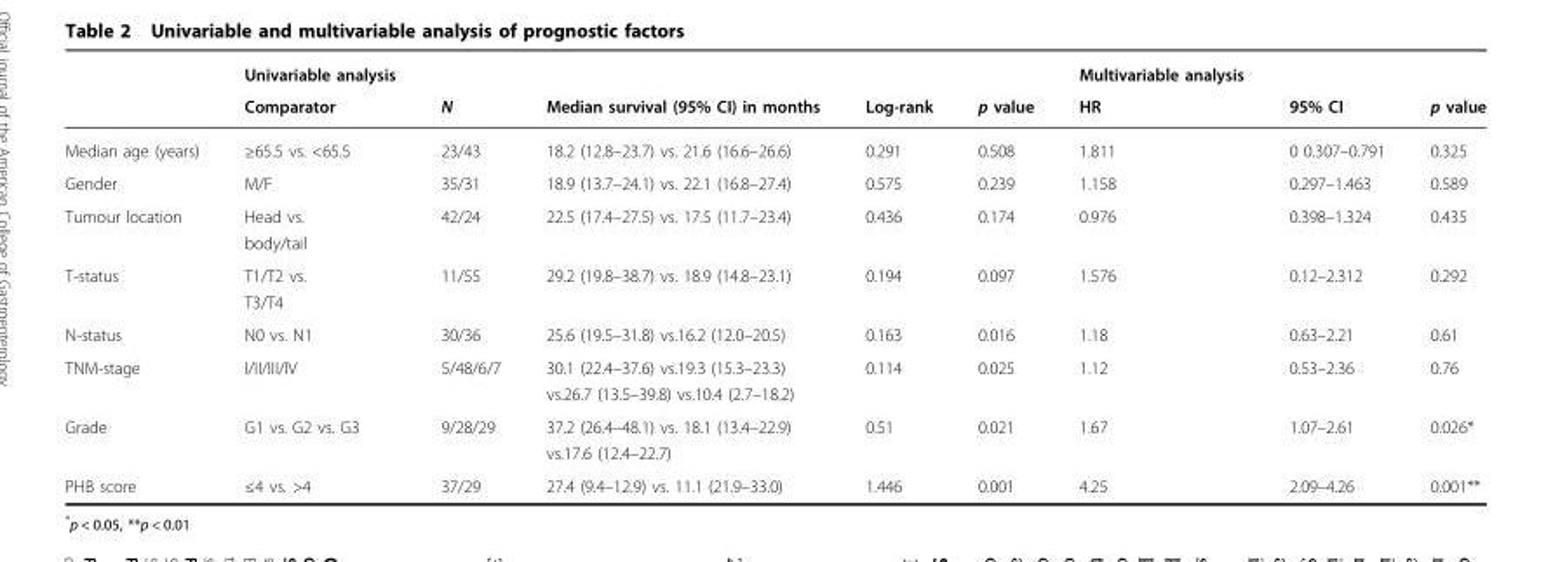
<table><thead><tr><td rowspan="2"></td><td rowspan="2">Univariable analysis Comparator</td><td rowspan="2">N</td><td rowspan="2">Median survival (95% CI) in months</td><td rowspan="2">Log-rank</td><td rowspan="2">p value</td><td rowspan="2">Multivariable analysis HR</td><td rowspan="2">95% CI</td><td rowspan="2">p value</td></tr><tr></tr></thead><tbody><tr><td>Median age (years)</td><td>≥65.5 vs. &lt;65.5</td><td>23/43</td><td>18.2 (12.8–23.7) vs. 21.6 (16.6–26.6)</td><td>0.291</td><td>0.508</td><td>1.811</td><td>0 0.307–0.791</td><td>0.325</td></tr><tr><td>Gender</td><td>M/F</td><td>35/31</td><td>18.9 (13.7–24.1) vs. 22.1 (16.8–27.4)</td><td>0.575</td><td>0.239</td><td>1.158</td><td>0.297–1.463</td><td>0.589</td></tr><tr><td>Tumour location</td><td>Head vs. body/tail</td><td>42/24</td><td>22.5 (17.4–27.5) vs. 17.5 (11.7–23.4)</td><td>0.436</td><td>0.174</td><td>0.976</td><td>0.398–1.324</td><td>0.435</td></tr><tr><td>T-status</td><td>T1/T2 vs. T3/T4</td><td>11/55</td><td>29.2 (19.8–38.7) vs. 18.9 (14.8–23.1)</td><td>0.194</td><td>0.097</td><td>1.576</td><td>0.12–2.312</td><td>0.292</td></tr><tr><td>N-status</td><td>N0 vs. N1</td><td>30/36</td><td>25.6 (19.5–31.8) vs.16.2 (12.0–20.5)</td><td>0.163</td><td>0.016</td><td>1.18</td><td>0.63–2.21</td><td>0.61</td></tr><tr><td>TNM-stage</td><td>I/II/III/IV</td><td>5/48/6/7</td><td>30.1 (22.4–37.6) vs.19.3 (15.3–23.3) vs.26.7 (13.5–39.8) vs.10.4 (2.7–18.2)</td><td>0.114</td><td>0.025</td><td>1.12</td><td>0.53–2.36</td><td>0.76</td></tr><tr><td>Grade</td><td>G1 vs. G2 vs. G3</td><td>9/28/29</td><td>37.2 (26.4–48.1) vs. 18.1 (13.4–22.9) vs.17.6 (12.4–22.7)</td><td>0.51</td><td>0.021</td><td>1.67</td><td>1.07–2.61</td><td>0.026*</td></tr><tr><td>PHB score</td><td>≤4 vs. &gt;4</td><td>37/29</td><td>27.4 (9.4–12.9) vs. 11.1 (21.9–33.0)</td><td>1.446</td><td>0.001</td><td>4.25</td><td>2.09–4.26</td><td>0.001**</td></tr></tbody></table>